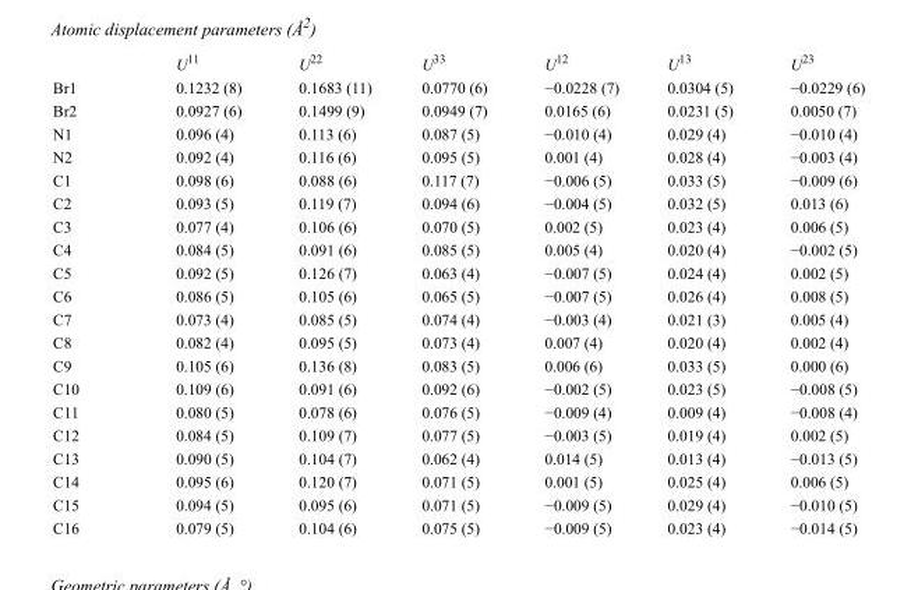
<table><thead><tr><td></td><td>U<sup>11</sup></td><td>U<sup>22</sup></td><td>U<sup>33</sup></td><td>U<sup>12</sup></td><td>U<sup>13</sup></td><td>U<sup>23</sup></td></tr></thead><tbody><tr><td>Br1</td><td>0.1232 (8)</td><td>0.1683 (11)</td><td>0.0770 (6)</td><td>−0.0228 (7)</td><td>0.0304 (5)</td><td>−0.0229 (6)</td></tr><tr><td>Br2</td><td>0.0927 (6)</td><td>0.1499 (9)</td><td>0.0949 (7)</td><td>0.0165 (6)</td><td>0.0231 (5)</td><td>0.0050 (7)</td></tr><tr><td>N1</td><td>0.096 (4)</td><td>0.113 (6)</td><td>0.087 (5)</td><td>−0.010 (4)</td><td>0.029 (4)</td><td>−0.010 (4)</td></tr><tr><td>N2</td><td>0.092 (4)</td><td>0.116 (6)</td><td>0.095 (5)</td><td>0.001 (4)</td><td>0.028 (4)</td><td>−0.003 (4)</td></tr><tr><td>C1</td><td>0.098 (6)</td><td>0.088 (6)</td><td>0.117 (7)</td><td>−0.006 (5)</td><td>0.033 (5)</td><td>−0.009 (6)</td></tr><tr><td>C2</td><td>0.093 (5)</td><td>0.119 (7)</td><td>0.094 (6)</td><td>−0.004 (5)</td><td>0.032 (5)</td><td>0.013 (6)</td></tr><tr><td>C3</td><td>0.077 (4)</td><td>0.106 (6)</td><td>0.070 (5)</td><td>0.002 (5)</td><td>0.023 (4)</td><td>0.006 (5)</td></tr><tr><td>C4</td><td>0.084 (5)</td><td>0.091 (6)</td><td>0.085 (5)</td><td>0.005 (4)</td><td>0.020 (4)</td><td>−0.002 (5)</td></tr><tr><td>C5</td><td>0.092 (5)</td><td>0.126 (7)</td><td>0.063 (4)</td><td>−0.007 (5)</td><td>0.024 (4)</td><td>0.002 (5)</td></tr><tr><td>C6</td><td>0.086 (5)</td><td>0.105 (6)</td><td>0.065 (5)</td><td>−0.007 (5)</td><td>0.026 (4)</td><td>0.008 (5)</td></tr><tr><td>C7</td><td>0.073 (4)</td><td>0.085 (5)</td><td>0.074 (4)</td><td>−0.003 (4)</td><td>0.021 (3)</td><td>0.005 (4)</td></tr><tr><td>C8</td><td>0.082 (4)</td><td>0.095 (5)</td><td>0.073 (4)</td><td>0.007 (4)</td><td>0.020 (4)</td><td>0.002 (4)</td></tr><tr><td>C9</td><td>0.105 (6)</td><td>0.136 (8)</td><td>0.083 (5)</td><td>0.006 (6)</td><td>0.033 (5)</td><td>0.000 (6)</td></tr><tr><td>C10</td><td>0.109 (6)</td><td>0.091 (6)</td><td>0.092 (6)</td><td>−0.002 (5)</td><td>0.023 (5)</td><td>−0.008 (5)</td></tr><tr><td>C11</td><td>0.080 (5)</td><td>0.078 (6)</td><td>0.076 (5)</td><td>−0.009 (4)</td><td>0.009 (4)</td><td>−0.008 (4)</td></tr><tr><td>C12</td><td>0.084 (5)</td><td>0.109 (7)</td><td>0.077 (5)</td><td>−0.003 (5)</td><td>0.019 (4)</td><td>0.002 (5)</td></tr><tr><td>C13</td><td>0.090 (5)</td><td>0.104 (7)</td><td>0.062 (4)</td><td>0.014 (5)</td><td>0.013 (4)</td><td>−0.013 (5)</td></tr><tr><td>C14</td><td>0.095 (6)</td><td>0.120 (7)</td><td>0.071 (5)</td><td>0.001 (5)</td><td>0.025 (4)</td><td>0.006 (5)</td></tr><tr><td>C15</td><td>0.094 (5)</td><td>0.095 (6)</td><td>0.071 (5)</td><td>−0.009 (5)</td><td>0.029 (4)</td><td>−0.010 (5)</td></tr><tr><td>C16</td><td>0.079 (5)</td><td>0.104 (6)</td><td>0.075 (5)</td><td>−0.009 (5)</td><td>0.023 (4)</td><td>−0.014 (5)</td></tr></tbody></table>